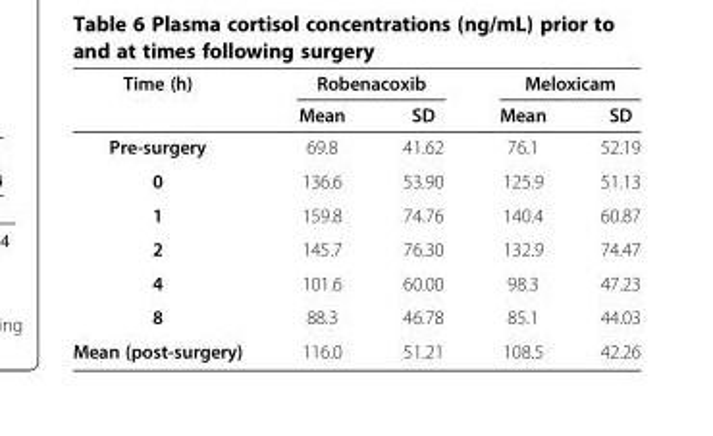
<table><thead><tr><td rowspan="2">Time (h)</td><td colspan="2">Robenacoxib</td><td colspan="2">Meloxicam</td></tr><tr><td>Mean</td><td>SD</td><td>Mean</td><td>SD</td></tr></thead><tbody><tr><td>Pre-surgery</td><td>69.8</td><td>41.62</td><td>76.1</td><td>52.19</td></tr><tr><td>0</td><td>136.6</td><td>53.90</td><td>125.9</td><td>51.13</td></tr><tr><td>1</td><td>159.8</td><td>74.76</td><td>140.4</td><td>60.87</td></tr><tr><td>2</td><td>145.7</td><td>76.30</td><td>132.9</td><td>74.47</td></tr><tr><td>4</td><td>101.6</td><td>60.00</td><td>98.3</td><td>47.23</td></tr><tr><td>8</td><td>88.3</td><td>46.78</td><td>85.1</td><td>44.03</td></tr><tr><td>Mean (post-surgery)</td><td>116.0</td><td>51.21</td><td>108.5</td><td>42.26</td></tr></tbody></table>